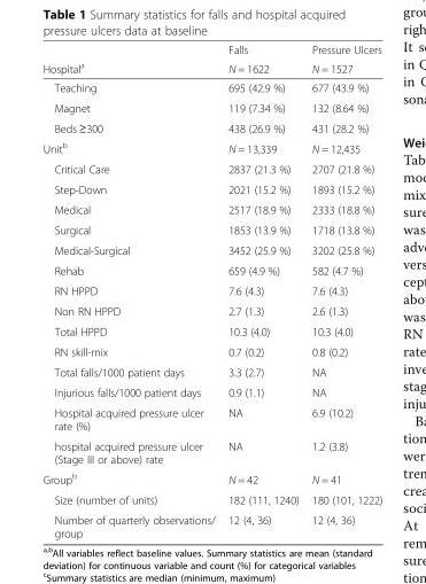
<table><thead><tr><td rowspan="2">Hospital<sup>a</sup></td><td rowspan="2">Falls N = 1622</td><td rowspan="2">Pressure Ulcers N = 1527</td></tr><tr></tr></thead><tbody><tr><td>Teaching</td><td>695 (42.9 %)</td><td>677 (43.9 %)</td></tr><tr><td>Magnet</td><td>119 (7.34 %)</td><td>132 (8.64 %)</td></tr><tr><td>Beds ≥300</td><td>438 (26.9 %)</td><td>431 (28.2 %)</td></tr><tr><td>Unit<sup>b</sup></td><td>N = 13,339</td><td>N = 12,435</td></tr><tr><td>Critical Care</td><td>2837 (21.3 %)</td><td>2707 (21.8 %)</td></tr><tr><td>Step-Down</td><td>2021 (15.2 %)</td><td>1893 (15.2 %)</td></tr><tr><td>Medical</td><td>2517 (18.9 %)</td><td>2333 (18.8 %)</td></tr><tr><td>Surgical</td><td>1853 (13.9 %)</td><td>1718 (13.8 %)</td></tr><tr><td>Medical-Surgical</td><td>3452 (25.9 %)</td><td>3202 (25.8 %)</td></tr><tr><td>Rehab</td><td>659 (4.9 %)</td><td>582 (4.7 %)</td></tr><tr><td>RN HPPD</td><td>7.6 (4.3)</td><td>7.6 (4.3)</td></tr><tr><td>Non RN HPPD</td><td>2.7 (1.3)</td><td>2.6 (1.3)</td></tr><tr><td>Total HPPD</td><td>10.3 (4.0)</td><td>10.3 (4.0)</td></tr><tr><td>RN skill-mix</td><td>0.7 (0.2)</td><td>0.8 (0.2)</td></tr><tr><td>Total falls/1000 patient days</td><td>3.3 (2.7)</td><td>NA</td></tr><tr><td>Injurious falls/1000 patient days</td><td>0.9 (1.1)</td><td>NA</td></tr><tr><td>Hospital acquired pressure ulcer rate (%)</td><td>NA</td><td>6.9 (10.2)</td></tr><tr><td>hospital acquired pressure ulcer (Stage III or above) rate</td><td>NA</td><td>1.2 (3.8)</td></tr><tr><td>Group<sup>b</sup></td><td>N = 42</td><td>N = 41</td></tr><tr><td>Size (number of units)</td><td>182 (111, 1240)</td><td>180 (101, 1222)</td></tr><tr><td>Number of quarterly observations/ group</td><td>12 (4, 36)</td><td>12 (4, 36)</td></tr></tbody></table>